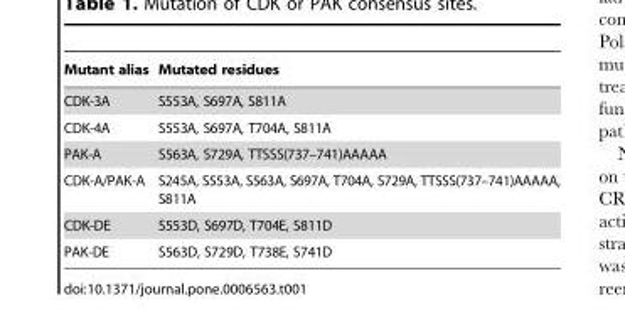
<table><thead><tr><td>Mutant alias</td><td>Mutated residues</td></tr></thead><tbody><tr><td>CDK-3A</td><td>S553A, S697A, S811A</td></tr><tr><td>CDK-4A</td><td>S553A, S697A, T704A, S811A</td></tr><tr><td>PAK-A</td><td>S563A, S729A, TTSSS(737–741)AAAAA</td></tr><tr><td>CDK-A/PAK-A</td><td>S245A, S553A, S563A, S697A, T704A, S729A, TTSSS(737–741)AAAAA, S811A</td></tr><tr><td>CDK-DE</td><td>S553D, S697D, T704E, S811D</td></tr><tr><td>PAK-DE</td><td>S563D, S729D, T738E, S741D</td></tr></tbody></table>